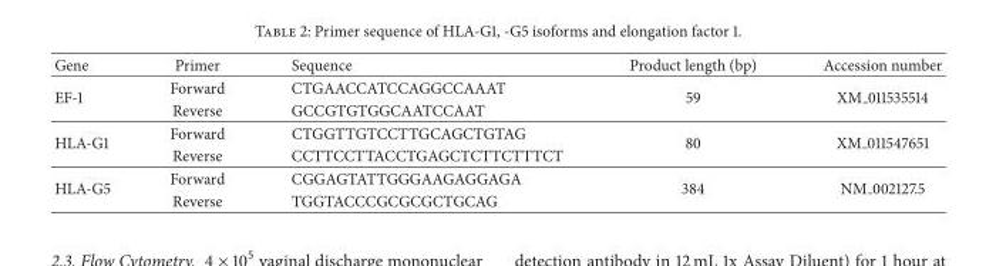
<table><thead><tr><td>Gene</td><td>Primer</td><td>Sequence</td><td>Product length (bp)</td><td>Accession number</td></tr></thead><tbody><tr><td rowspan="2">EF-1</td><td>Forward</td><td>CTGAACCATCCAGGCCAAAT</td><td rowspan="2">59</td><td rowspan="2">XM 011535514</td></tr><tr><td>Reverse</td><td>GCCGTGTGGCAATCCAAT</td></tr><tr><td rowspan="2">HLA-G1</td><td>Forward</td><td>CTGGTTGTCCTTGCAGCTGTAG</td><td rowspan="2">80</td><td rowspan="2">XM 011547651</td></tr><tr><td>Reverse</td><td>CCTTCCTTACCTGAGCTCTTCTTTCT</td></tr><tr><td rowspan="2">HLA-G5</td><td>Forward</td><td>CGGAGTATTGGGAAGAGGAGA</td><td rowspan="2">384</td><td rowspan="2">NM 002127.5</td></tr><tr><td>Reverse</td><td>TGGTACCCGCGCGCTGCAG</td></tr></tbody></table>